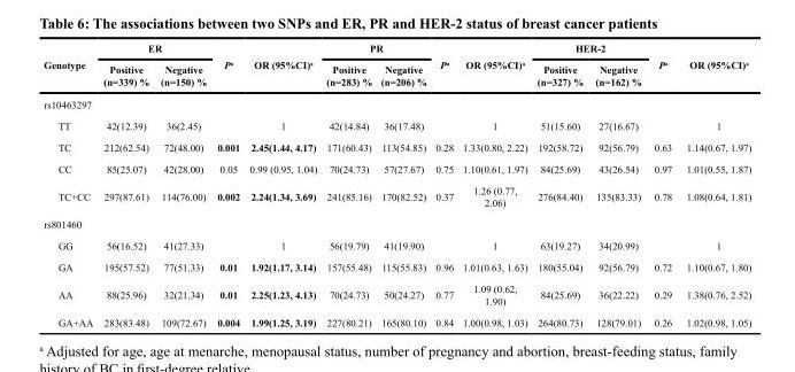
<table><thead><tr><td rowspan="2">Genotype</td><td colspan="2">ER</td><td rowspan="2">P<sup>a</sup></td><td rowspan="2">OR (95%CI)<sup>a</sup></td><td colspan="2">PR</td><td rowspan="2">P<sup>a</sup></td><td rowspan="2">OR (95%CI)<sup>a</sup></td><td colspan="2">HER-2</td><td rowspan="2">P<sup>a</sup></td><td rowspan="2">OR (95%CI)<sup>a</sup></td></tr><tr><td>Positive (n=339) %</td><td>Negative (n=150) %</td><td>Positive (n=283) %</td><td>Negative (n=206) %</td><td>Positive (n=327) %</td><td>Negative (n=162) %</td></tr></thead><tbody><tr><td colspan="13">rs10463297</td></tr><tr><td>TT</td><td>42(12.39)</td><td>36(2.45)</td><td></td><td>1</td><td>42(14.84)</td><td>36(17.48)</td><td></td><td>1</td><td>51(15.60)</td><td>27(16.67)</td><td></td><td>1</td></tr><tr><td>TC</td><td>212(62.54)</td><td>72(48.00)</td><td>0.001</td><td>2.45(1.44, 4.17)</td><td>171(60.43)</td><td>113(54.85)</td><td>0.28</td><td>1.33(0.80, 2.22)</td><td>192(58.72)</td><td>92(56.79)</td><td>0.63</td><td>1.14(0.67, 1.97)</td></tr><tr><td>CC</td><td>85(25.07)</td><td>42(28.00)</td><td>0.05</td><td>0.99 (0.95, 1.04)</td><td>70(24.73)</td><td>57(27.67)</td><td>0.75</td><td>1.10(0.61, 1.97)</td><td>84(25.69)</td><td>43(26.54)</td><td>0.97</td><td>1.01(0.55, 1.87)</td></tr><tr><td>TC+CC</td><td>297(87.61)</td><td>114(76.00)</td><td>0.002</td><td>2.24(1.34, 3.69)</td><td>241(85.16)</td><td>170(82.52)</td><td>0.37</td><td>1.26 (0.77, 2.06)</td><td>276(84.40)</td><td>135(83.33)</td><td>0.78</td><td>1.08(0.64, 1.81)</td></tr><tr><td colspan="13">rs801460</td></tr><tr><td>GG</td><td>56(16.52)</td><td>41(27.33)</td><td></td><td>1</td><td>56(19.79)</td><td>41(19.90)</td><td></td><td>1</td><td>63(19.27)</td><td>34(20.99)</td><td></td><td>1</td></tr><tr><td>GA</td><td>195(57.52)</td><td>77(51.33)</td><td>0.01</td><td>1.92(1.17, 3.14)</td><td>157(55.48)</td><td>115(55.83)</td><td>0.96</td><td>1.01(0.63, 1.63)</td><td>180(55.04)</td><td>92(56.79)</td><td>0.72</td><td>1.10(0.67, 1.80)</td></tr><tr><td>AA</td><td>88(25.96)</td><td>32(21.34)</td><td>0.01</td><td>2.25(1.23, 4.13)</td><td>70(24.73)</td><td>50(24.27)</td><td>0.77</td><td>1.09 (0.62, 1.90)</td><td>84(25.69)</td><td>36(22.22)</td><td>0.29</td><td>1.38(0.76, 2.52)</td></tr><tr><td>GA+AA</td><td>283(83.48)</td><td>109(72.67)</td><td>0.004</td><td>1.99(1.25, 3.19)</td><td>227(80.21)</td><td>165(80.10)</td><td>0.84</td><td>1.00(0.98, 1.03)</td><td>264(80.73)</td><td>128(79.01)</td><td>0.26</td><td>1.02(0.98, 1.05)</td></tr></tbody></table>